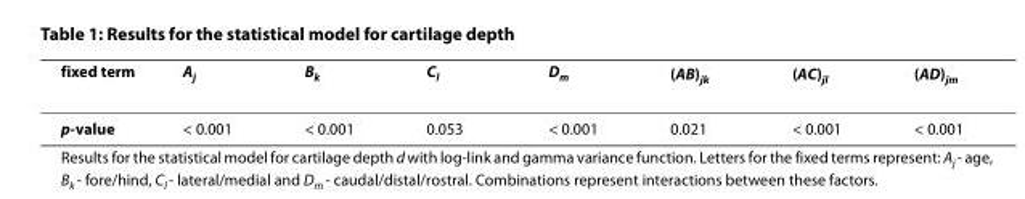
<table><thead><tr><td>fixed term</td><td>A<sub>j</sub></td><td>B<sub>k</sub></td><td>C<sub>l</sub></td><td>D<sub>m</sub></td><td>(AB)<sub>jk</sub></td><td>(AC)<sub>jl</sub></td><td>(AD)<sub>jm</sub></td></tr></thead><tbody><tr><td>p-value</td><td>&lt; 0.001</td><td>&lt; 0.001</td><td>0.053</td><td>&lt; 0.001</td><td>0.021</td><td>&lt; 0.001</td><td>&lt; 0.001</td></tr></tbody></table>